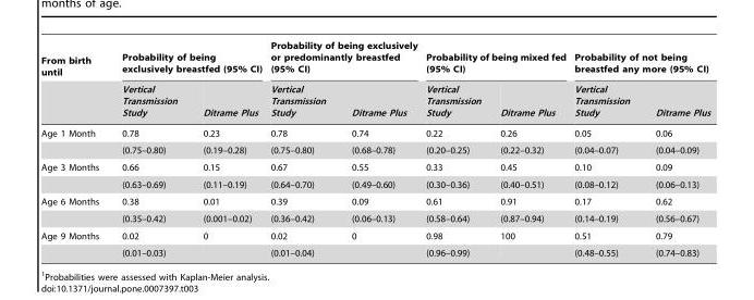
<table><thead><tr><td rowspan="2">From birth until</td><td colspan="2">Probability of being exclusively breastfed (95% CI)</td><td colspan="2">Probability of being exclusively or predominantly breastfed (95% CI)</td><td colspan="2">Probability of being mixed fed (95% CI)</td><td colspan="2">Probability of not being breastfed any more (95% CI)</td></tr><tr><td>Vertical Transmission Study</td><td>Ditrame Plus</td><td>Vertical Transmission Study</td><td>Ditrame Plus</td><td>Vertical Transmission Study</td><td>Ditrame Plus</td><td>Vertical Transmission Study</td><td>Ditrame Plus</td></tr></thead><tbody><tr><td rowspan="2">Age 1 Month</td><td>0.78</td><td>0.23</td><td>0.78</td><td>0.74</td><td>0.22</td><td>0.26</td><td>0.05</td><td>0.06</td></tr><tr><td>(0.75–0.80)</td><td>(0.19–0.28)</td><td>(0.75–0.80)</td><td>(0.68–0.78)</td><td>(0.20–0.25)</td><td>(0.22–0.32)</td><td>(0.04–0.07)</td><td>(0.04–0.09)</td></tr><tr><td rowspan="2">Age 3 Months</td><td>0.66</td><td>0.15</td><td>0.67</td><td>0.55</td><td>0.33</td><td>0.45</td><td>0.10</td><td>0.09</td></tr><tr><td>(0.63–0.69)</td><td>(0.11–0.19)</td><td>(0.64–0.70)</td><td>(0.49–0.60)</td><td>(0.30–0.36)</td><td>(0.40–0.51)</td><td>(0.08–0.12)</td><td>(0.06–0.13)</td></tr><tr><td rowspan="2">Age 6 Months</td><td>0.38</td><td>0.01</td><td>0.39</td><td>0.09</td><td>0.61</td><td>0.91</td><td>0.17</td><td>0.62</td></tr><tr><td>(0.35–0.42)</td><td>(0.001–0.02)</td><td>(0.36–0.42)</td><td>(0.06–0.13)</td><td>(0.58–0.64)</td><td>(0.87–0.94)</td><td>(0.14–0.19)</td><td>(0.56–0.67)</td></tr><tr><td rowspan="2">Age 9 Months</td><td>0.02</td><td>0</td><td>0.02</td><td>0</td><td>0.98</td><td>100</td><td>0.51</td><td>0.79</td></tr><tr><td>(0.01–0.03)</td><td></td><td>(0.01–0.04)</td><td></td><td>(0.96–0.99)</td><td></td><td>(0.48–0.55)</td><td>(0.74–0.83)</td></tr></tbody></table>